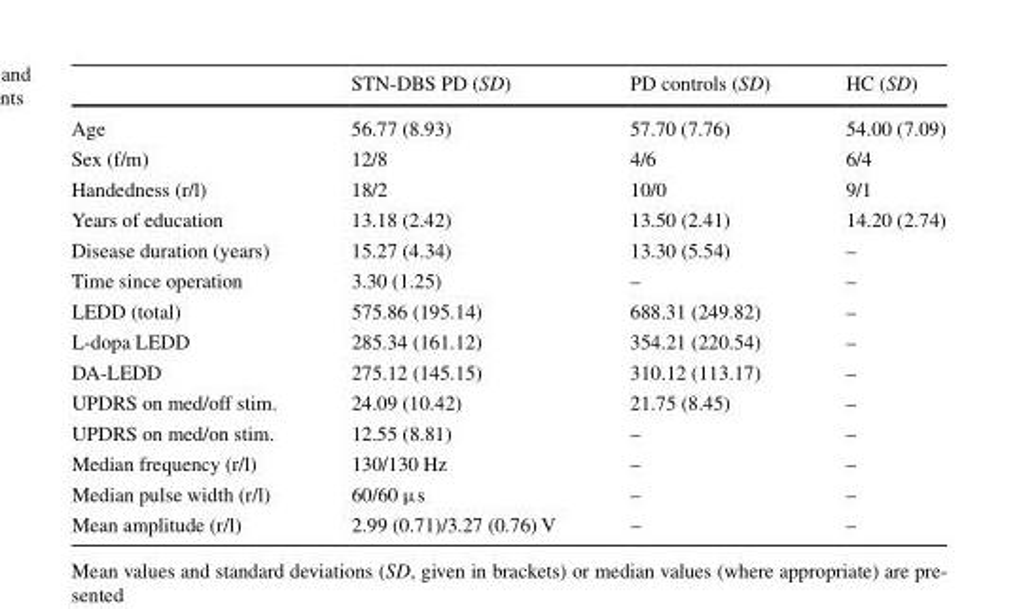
<table><thead><tr><td></td><td>STN-DBS PD (SD)</td><td>PD controls (SD)</td><td>HC (SD)</td></tr></thead><tbody><tr><td>Age</td><td>56.77 (8.93)</td><td>57.70 (7.76)</td><td>54.00 (7.09)</td></tr><tr><td>Sex (f/m)</td><td>12/8</td><td>4/6</td><td>6/4</td></tr><tr><td>Handedness (r/l)</td><td>18/2</td><td>10/0</td><td>9/1</td></tr><tr><td>Years of education</td><td>13.18 (2.42)</td><td>13.50 (2.41)</td><td>14.20 (2.74)</td></tr><tr><td>Disease duration (years)</td><td>15.27 (4.34)</td><td>13.30 (5.54)</td><td>–</td></tr><tr><td>Time since operation</td><td>3.30 (1.25)</td><td>–</td><td>–</td></tr><tr><td>LEDD (total)</td><td>575.86 (195.14)</td><td>688.31 (249.82)</td><td>–</td></tr><tr><td>L-dopa LEDD</td><td>285.34 (161.12)</td><td>354.21 (220.54)</td><td>–</td></tr><tr><td>DA-LEDD</td><td>275.12 (145.15)</td><td>310.12 (113.17)</td><td>–</td></tr><tr><td>UPDRS on med/off stim.</td><td>24.09 (10.42)</td><td>21.75 (8.45)</td><td>–</td></tr><tr><td>UPDRS on med/on stim.</td><td>12.55 (8.81)</td><td>–</td><td>–</td></tr><tr><td>Median frequency (r/l)</td><td>130/130 Hz</td><td>–</td><td>–</td></tr><tr><td>Median pulse width (r/l)</td><td>60/60 μs</td><td>–</td><td>–</td></tr><tr><td>Mean amplitude (r/l)</td><td>2.99 (0.71)/3.27 (0.76) V</td><td>–</td><td>–</td></tr></tbody></table>